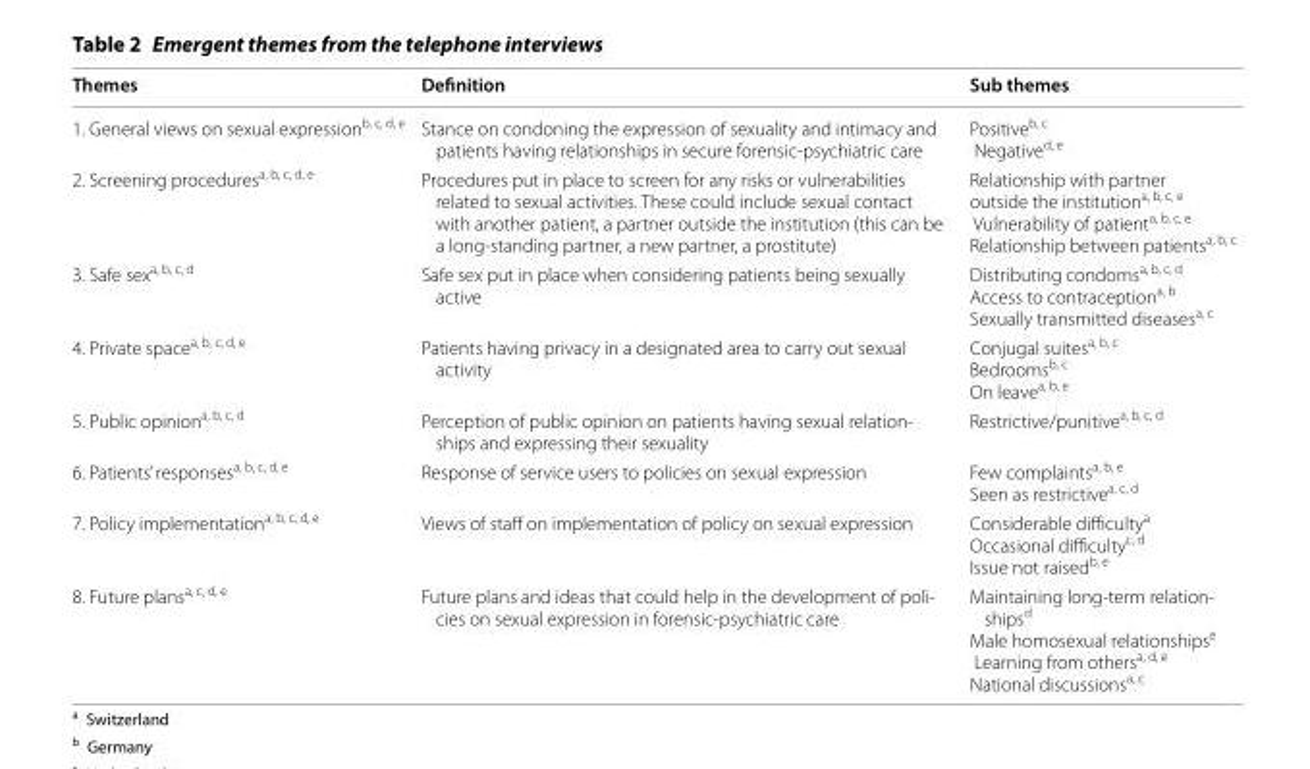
<table><thead><tr><td>Themes</td><td>Definition</td><td>Sub themes</td></tr></thead><tbody><tr><td>1. General views on sexual expression<sup>b, c, d, e</sup></td><td>Stance on condoning the expression of sexuality and intimacy and patients having relationships in secure forensic-psychiatric care</td><td>Positive<sup>b, c</sup> Negative<sup>d, e</sup></td></tr><tr><td>2. Screening procedures<sup>a, b, c, d, e</sup></td><td>Procedures put in place to screen for any risks or vulnerabilities related to sexual activities. These could include sexual contact with another patient, a partner outside the institution (this can be a long-standing partner, a new partner, a prostitute)</td><td>Relationship with partner outside the institution<sup>a, b, c, e</sup> Vulnerability of patient<sup>a, b, c, e</sup> Relationship between patients<sup>a, b, c</sup></td></tr><tr><td>3. Safe sex<sup>a, b, c, d</sup></td><td>Safe sex put in place when considering patients being sexually active</td><td>Distributing condoms<sup>a, b, c, d</sup> Access to contraception<sup>a, b</sup> Sexually transmitted diseases<sup>a, c</sup></td></tr><tr><td>4. Private space<sup>a, b, c, d, e</sup></td><td>Patients having privacy in a designated area to carry out sexual activity</td><td>Conjugal suites<sup>a, b, c</sup> Bedrooms<sup>b, c</sup> On leave<sup>a, b, e</sup></td></tr><tr><td>5. Public opinion<sup>a, b, c, d</sup></td><td>Perception of public opinion on patients having sexual relation- ships and expressing their sexuality</td><td>Restrictive/punitive<sup>a, b, c, d</sup></td></tr><tr><td>6. Patients’ responses<sup>a, b, c, d, e</sup></td><td>Response of service users to policies on sexual expression</td><td>Few complaints<sup>a, b, e</sup> Seen as restrictive<sup>a, c, d</sup></td></tr><tr><td>7. Policy implementation<sup>a, b, c, d, e</sup></td><td>Views of staff on implementation of policy on sexual expression</td><td>Considerable difficulty<sup>a</sup> Occasional difficulty<sup>c, d</sup> Issue not raised<sup>b, e</sup></td></tr><tr><td>8. Future plans<sup>a, c, d, e</sup></td><td>Future plans and ideas that could help in the development of poli- cies on sexual expression in forensic-psychiatric care</td><td>Maintaining long-term relation- shipsd Male homosexual relationshipse Learning from othersa, d, e National discussionsa, c</td></tr></tbody></table>